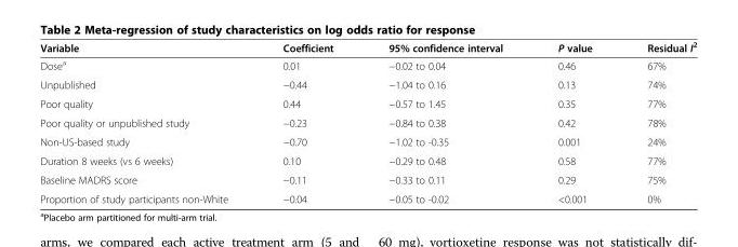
<table><thead><tr><td>Variable</td><td>Coefficient</td><td>95% confidence interval</td><td>P value</td><td>Residual I<sup>2</sup></td></tr></thead><tbody><tr><td>Dose<sup>a</sup></td><td>0.01</td><td>−0.02 to 0.04</td><td>0.46</td><td>67%</td></tr><tr><td>Unpublished</td><td>−0.44</td><td>−1.04 to 0.16</td><td>0.13</td><td>74%</td></tr><tr><td>Poor quality</td><td>0.44</td><td>−0.57 to 1.45</td><td>0.35</td><td>77%</td></tr><tr><td>Poor quality or unpublished study</td><td>−0.23</td><td>−0.84 to 0.38</td><td>0.42</td><td>78%</td></tr><tr><td>Non-US-based study</td><td>−0.70</td><td>−1.02 to -0.35</td><td>0.001</td><td>24%</td></tr><tr><td>Duration 8 weeks (vs 6 weeks)</td><td>0.10</td><td>−0.29 to 0.48</td><td>0.58</td><td>77%</td></tr><tr><td>Baseline MADRS score</td><td>−0.11</td><td>−0.33 to 0.11</td><td>0.29</td><td>75%</td></tr><tr><td>Proportion of study participants non-White</td><td>−0.04</td><td>−0.05 to -0.02</td><td>&lt;0.001</td><td>0%</td></tr></tbody></table>